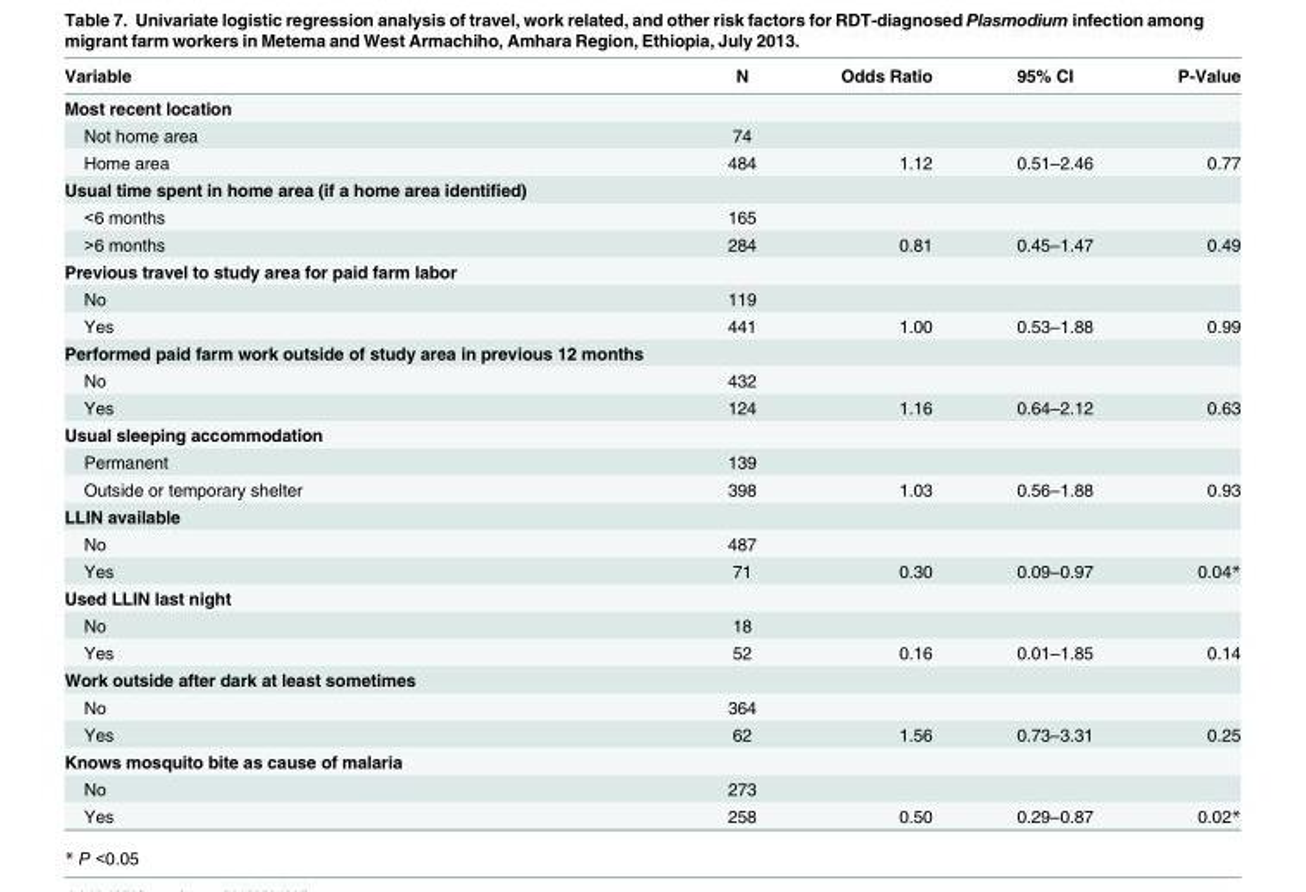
<table><thead><tr><td>Variable</td><td>N</td><td>Odds Ratio</td><td>95% CI</td><td>P-Value</td></tr></thead><tbody><tr><td colspan="5">Most recent location</td></tr><tr><td>Not home area</td><td>74</td><td></td><td></td><td></td></tr><tr><td>Home area</td><td>484</td><td>1.12</td><td>0.51–2.46</td><td>0.77</td></tr><tr><td colspan="5">Usual time spent in home area (if a home area identified)</td></tr><tr><td>&lt;6 months</td><td>165</td><td></td><td></td><td></td></tr><tr><td>&gt;6 months</td><td>284</td><td>0.81</td><td>0.45–1.47</td><td>0.49</td></tr><tr><td colspan="5">Previous travel to study area for paid farm labor</td></tr><tr><td>No</td><td>119</td><td></td><td></td><td></td></tr><tr><td>Yes</td><td>441</td><td>1.00</td><td>0.53–1.88</td><td>0.99</td></tr><tr><td colspan="5">Performed paid farm work outside of study area in previous 12 months</td></tr><tr><td>No</td><td>432</td><td></td><td></td><td></td></tr><tr><td>Yes</td><td>124</td><td>1.16</td><td>0.64–2.12</td><td>0.63</td></tr><tr><td colspan="5">Usual sleeping accommodation</td></tr><tr><td>Permanent</td><td>139</td><td></td><td></td><td></td></tr><tr><td>Outside or temporary shelter</td><td>398</td><td>1.03</td><td>0.56–1.88</td><td>0.93</td></tr><tr><td colspan="5">LLIN available</td></tr><tr><td>No</td><td>487</td><td></td><td></td><td></td></tr><tr><td>Yes</td><td>71</td><td>0.30</td><td>0.09–0.97</td><td>0.04*</td></tr><tr><td colspan="5">Used LLIN last night</td></tr><tr><td>No</td><td>18</td><td></td><td></td><td></td></tr><tr><td>Yes</td><td>52</td><td>0.16</td><td>0.01–1.85</td><td>0.14</td></tr><tr><td colspan="5">Work outside after dark at least sometimes</td></tr><tr><td>No</td><td>364</td><td></td><td></td><td></td></tr><tr><td>Yes</td><td>62</td><td>1.56</td><td>0.73–3.31</td><td>0.25</td></tr><tr><td colspan="5">Knows mosquito bite as cause of malaria</td></tr><tr><td>No</td><td>273</td><td></td><td></td><td></td></tr><tr><td>Yes</td><td>258</td><td>0.50</td><td>0.29–0.87</td><td>0.02*</td></tr></tbody></table>